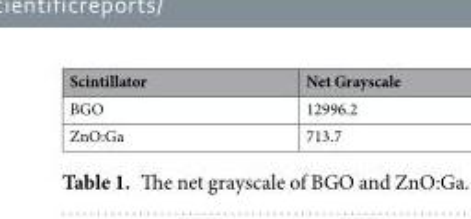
<table><thead><tr><td>Scintillator</td><td>Net Grayscale</td></tr></thead><tbody><tr><td>BGO</td><td>12996.2</td></tr><tr><td>ZnO:Ga</td><td>713.7</td></tr></tbody></table>